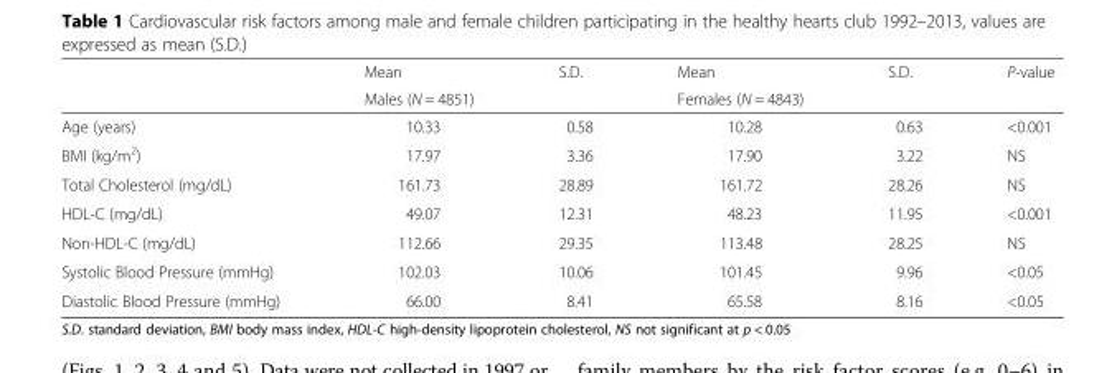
<table><thead><tr><td rowspan="2"></td><td rowspan="2">Mean Males (N = 4851)</td><td rowspan="2">S.D.</td><td rowspan="2">Mean Females (N = 4843)</td><td rowspan="2">S.D.</td><td rowspan="2">P-value</td></tr><tr></tr></thead><tbody><tr><td>Age (years)</td><td>10.33</td><td>0.58</td><td>10.28</td><td>0.63</td><td>&lt;0.001</td></tr><tr><td>BMI (kg/m<sup>2</sup>)</td><td>17.97</td><td>3.36</td><td>17.90</td><td>3.22</td><td>NS</td></tr><tr><td>Total Cholesterol (mg/dL)</td><td>161.73</td><td>28.89</td><td>161.72</td><td>28.26</td><td>NS</td></tr><tr><td>HDL-C (mg/dL)</td><td>49.07</td><td>12.31</td><td>48.23</td><td>11.95</td><td>&lt;0.001</td></tr><tr><td>Non-HDL-C (mg/dL)</td><td>112.66</td><td>29.35</td><td>113.48</td><td>28.25</td><td>NS</td></tr><tr><td>Systolic Blood Pressure (mmHg)</td><td>102.03</td><td>10.06</td><td>101.45</td><td>9.96</td><td>&lt;0.05</td></tr><tr><td>Diastolic Blood Pressure (mmHg)</td><td>66.00</td><td>8.41</td><td>65.58</td><td>8.16</td><td>&lt;0.05</td></tr></tbody></table>